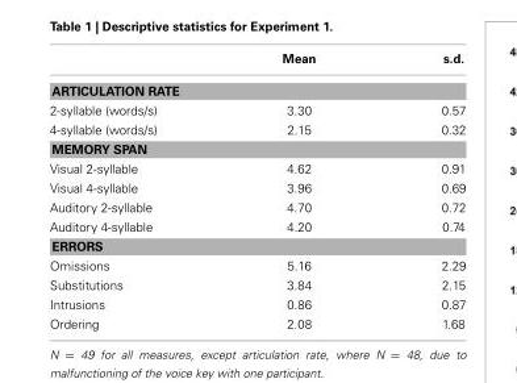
<table><thead><tr><td></td><td>Mean</td><td>s.d.</td></tr></thead><tbody><tr><td colspan="3">ARTICULATION RATE</td></tr><tr><td>2-syllable (words/s)</td><td>3.30</td><td>0.57</td></tr><tr><td>4-syllable (words/s)</td><td>2.15</td><td>0.32</td></tr><tr><td colspan="3">MEMORY SPAN</td></tr><tr><td>Visual 2-syllable</td><td>4.62</td><td>0.91</td></tr><tr><td>Visual 4-syllable</td><td>3.96</td><td>0.69</td></tr><tr><td>Auditory 2-syllable</td><td>4.70</td><td>0.72</td></tr><tr><td>Auditory 4-syllable</td><td>4.20</td><td>0.74</td></tr><tr><td colspan="3">ERRORS</td></tr><tr><td>Omissions</td><td>5.16</td><td>2.29</td></tr><tr><td>Substitutions</td><td>3.84</td><td>2.15</td></tr><tr><td>Intrusions</td><td>0.86</td><td>0.87</td></tr><tr><td>Ordering</td><td>2.08</td><td>1.68</td></tr></tbody></table>